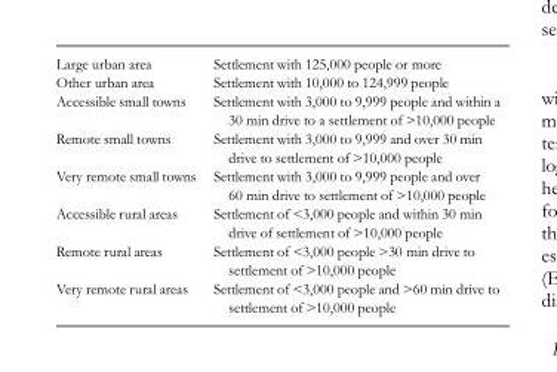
<table><tbody><tr><td>Large urban area</td><td>Settlement with 125,000 people or more</td></tr><tr><td>Other urban area</td><td>Settlement with 10,000 to 124,999 people</td></tr><tr><td>Accessible small towns</td><td>Settlement with 3,000 to 9,999 people and within a 30 min drive to a settlement of &gt;10,000 people</td></tr><tr><td>Remote small towns</td><td>Settlement with 3,000 to 9,999 and over 30 min drive to settlement of &gt;10,000 people</td></tr><tr><td>Very remote small towns</td><td>Settlement with 3,000 to 9,999 people and over 60 min drive to settlement of &gt;10,000 people</td></tr><tr><td>Accessible rural areas</td><td>Settlement of &lt;3,000 people and within 30 min drive of settlement of &gt;10,000 people</td></tr><tr><td>Remote rural areas</td><td>Settlement of &lt;3,000 people &gt;30 min drive to settlement of &gt;10,000 people</td></tr><tr><td>Very remote rural areas</td><td>Settlement of &lt;3,000 people and &gt;60 min drive to settlement of &gt;10,000 people</td></tr></tbody></table>